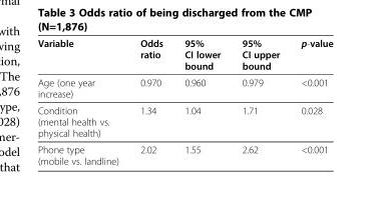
<table><thead><tr><td>Variable</td><td>Odds ratio</td><td>95% CI lower bound</td><td>95% CI upper bound</td><td>p-value</td></tr></thead><tbody><tr><td>Age (one year increase)</td><td>0.970</td><td>0.960</td><td>0.979</td><td>&lt;0.001</td></tr><tr><td>Condition (mental health vs. physical health)</td><td>1.34</td><td>1.04</td><td>1.71</td><td>0.028</td></tr><tr><td>Phone type (mobile vs. landline)</td><td>2.02</td><td>1.55</td><td>2.62</td><td>&lt;0.001</td></tr></tbody></table>